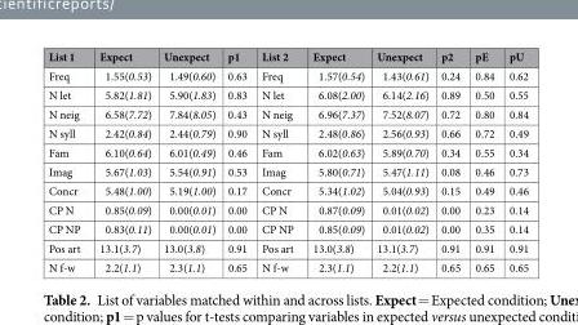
<table><thead><tr><td>List 1</td><td>Expect</td><td>Unexpect</td><td>p1</td><td>List 2</td><td>Expect</td><td>Unexpect</td><td>p2</td><td>pE</td><td>pU</td></tr></thead><tbody><tr><td>Freq</td><td>1.55(0.53)</td><td>1.49(0.60)</td><td>0.63</td><td>Freq</td><td>1.57(0.54)</td><td>1.43(0.61)</td><td>0.24</td><td>0.84</td><td>0.62</td></tr><tr><td>N let</td><td>5.82(1.81)</td><td>5.90(1.83)</td><td>0.83</td><td>N let</td><td>6.08(2.00)</td><td>6.14(2.16)</td><td>0.89</td><td>0.50</td><td>0.55</td></tr><tr><td>N neig</td><td>6.58(7.72)</td><td>7.84(8.05)</td><td>0.43</td><td>N neig</td><td>6.96(7.37)</td><td>7.52(8.07)</td><td>0.72</td><td>0.80</td><td>0.84</td></tr><tr><td>N syll</td><td>2.42(0.84)</td><td>2.44(0.79)</td><td>0.90</td><td>N syll</td><td>2.48(0.86)</td><td>2.56(0.93)</td><td>0.66</td><td>0.72</td><td>0.49</td></tr><tr><td>Fam</td><td>6.10(0.64)</td><td>6.01(0.49)</td><td>0.46</td><td>Fam</td><td>6.02(0.63)</td><td>5.89(0.70)</td><td>0.34</td><td>0.55</td><td>0.34</td></tr><tr><td>Imag</td><td>5.67(1.03)</td><td>5.54(0.91)</td><td>0.53</td><td>Imag</td><td>5.80(0.71)</td><td>5.47(1.11)</td><td>0.08</td><td>0.46</td><td>0.73</td></tr><tr><td>Concr</td><td>5.48(1.00)</td><td>5.19(1.00)</td><td>0.17</td><td>Concr</td><td>5.34(1.02)</td><td>5.04(0.93)</td><td>0.15</td><td>0.49</td><td>0.46</td></tr><tr><td>CP N</td><td>0.85(0.09)</td><td>0.00(0.01)</td><td>0.00</td><td>CP N</td><td>0.87(0.09)</td><td>0.01(0.02)</td><td>0.00</td><td>0.23</td><td>0.14</td></tr><tr><td>CP NP</td><td>0.83(0.11)</td><td>0.00(0.01)</td><td>0.00</td><td>CP NP</td><td>0.85(0.09)</td><td>0.01(0.02)</td><td>0.00</td><td>0.35</td><td>0.14</td></tr><tr><td>Pos art</td><td>13.1(3.7)</td><td>13.0(3.8)</td><td>0.91</td><td>Pos art</td><td>13.0(3.8)</td><td>13.1(3.7)</td><td>0.91</td><td>0.91</td><td>0.91</td></tr><tr><td>N f-w</td><td>2.2(1.1)</td><td>2.3(1.1)</td><td>0.65</td><td>N f-w</td><td>2.3(1.1)</td><td>2.2(1.1)</td><td>0.65</td><td>0.65</td><td>0.65</td></tr></tbody></table>